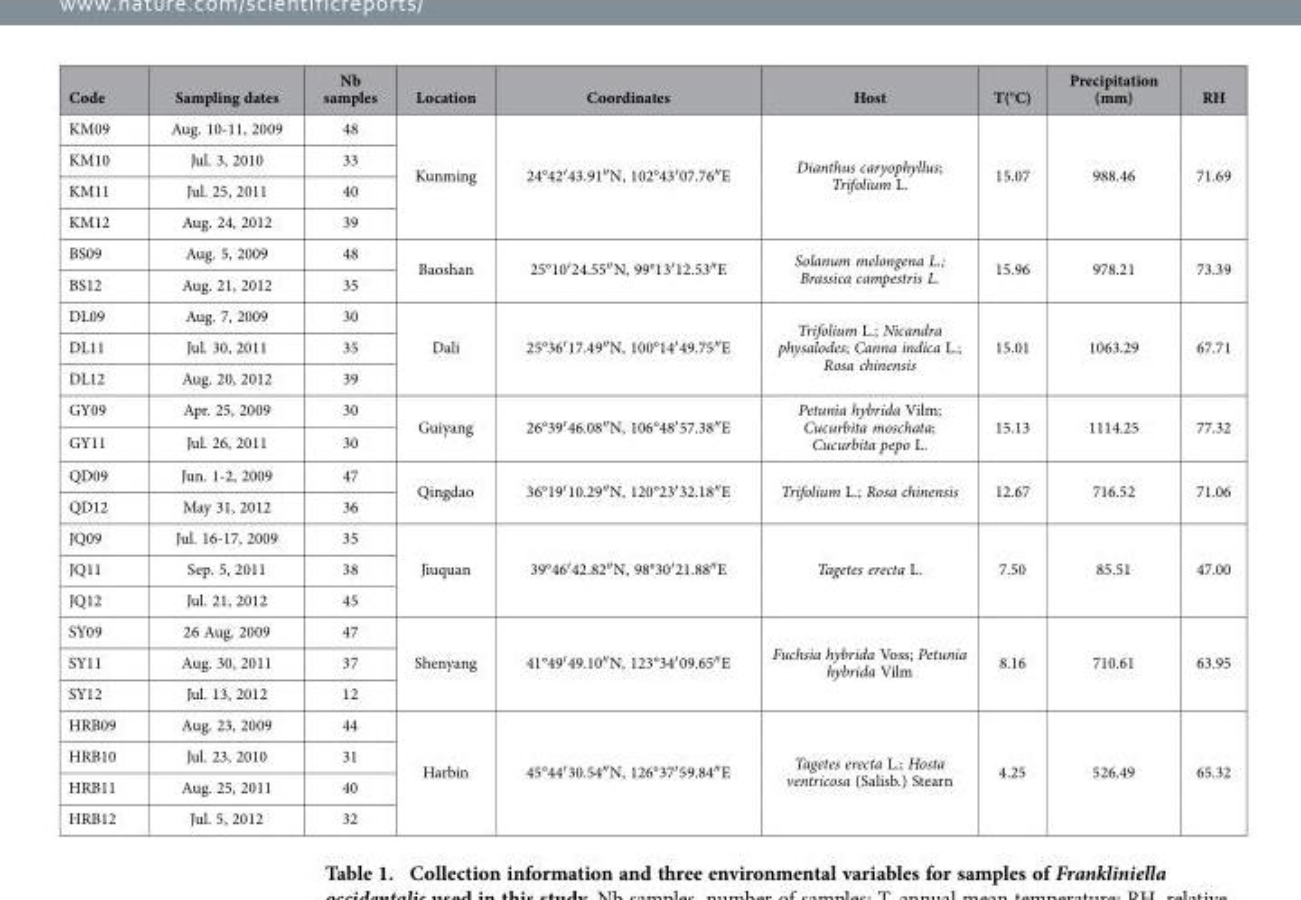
<table><thead><tr><td>Code</td><td>Sampling dates</td><td>Nb samples</td><td>Location</td><td>Coordinates</td><td>Host</td><td>T(°C)</td><td>Precipitation (mm)</td><td>RH</td></tr></thead><tbody><tr><td>KM09</td><td>Aug. 10-11, 2009</td><td>48</td><td rowspan="4">Kunming</td><td rowspan="4">24°42′ 43.91″ N, 102°43′ 07.76″ E</td><td rowspan="4">Dianthus caryophyllus; Trifolium L.</td><td rowspan="4">15.07</td><td rowspan="4">988.46</td><td rowspan="4">71.69</td></tr><tr><td>KM10</td><td>Jul. 3, 2010</td><td>33</td></tr><tr><td>KM11</td><td>Jul. 25, 2011</td><td>40</td></tr><tr><td>KM12</td><td>Aug. 24, 2012</td><td>39</td></tr><tr><td>BS09</td><td>Aug. 5, 2009</td><td>48</td><td rowspan="2">Baoshan</td><td rowspan="2">25°10′ 24.55″ N, 99°13′ 12.53″ E</td><td rowspan="2">Solanum melongena L.; Brassica campestris L.</td><td rowspan="2">15.96</td><td rowspan="2">978.21</td><td rowspan="2">73.39</td></tr><tr><td>BS12</td><td>Aug. 21, 2012</td><td>35</td></tr><tr><td>DL09</td><td>Aug. 7, 2009</td><td>30</td><td rowspan="3">Dali</td><td rowspan="3">25°36′ 17.49″ N, 100°14′ 49.75″ E</td><td rowspan="3">Trifolium L.; Nicandra physalodes; Canna indica L.; Rosa chinensis</td><td rowspan="3">15.01</td><td rowspan="3">1063.29</td><td rowspan="3">67.71</td></tr><tr><td>DL11</td><td>Jul. 30, 2011</td><td>35</td></tr><tr><td>DL12</td><td>Aug. 20, 2012</td><td>39</td></tr><tr><td>GY09</td><td>Apr. 25, 2009</td><td>30</td><td rowspan="2">Guiyang</td><td rowspan="2">26°39′ 46.08″ N, 106°48′ 57.38″ E</td><td rowspan="2">Petunia hybrida Vilm; Cucurbita moschata; Cucurbita pepo L.</td><td rowspan="2">15.13</td><td rowspan="2">1114.25</td><td rowspan="2">77.32</td></tr><tr><td>GY11</td><td>Jul. 26, 2011</td><td>30</td></tr><tr><td>QD09</td><td>Jun. 1-2, 2009</td><td>47</td><td rowspan="2">Qingdao</td><td rowspan="2">36°19′ 10.29″ N, 120°23′ 32.18″ E</td><td rowspan="2">Trifolium L.; Rosa chinensis</td><td rowspan="2">12.67</td><td rowspan="2">716.52</td><td rowspan="2">71.06</td></tr><tr><td>QD12</td><td>May 31, 2012</td><td>36</td></tr><tr><td>JQ09</td><td>Jul. 16-17, 2009</td><td>35</td><td rowspan="3">Jiuquan</td><td rowspan="3">39°46′ 42.82″ N, 98°30′ 21.88″ E</td><td rowspan="3">Tagetes erecta L.</td><td rowspan="3">7.50</td><td rowspan="3">85.51</td><td rowspan="3">47.00</td></tr><tr><td>JQ11</td><td>Sep. 5, 2011</td><td>38</td></tr><tr><td>JQ12</td><td>Jul. 21, 2012</td><td>45</td></tr><tr><td>SY09</td><td>26 Aug. 2009</td><td>47</td><td rowspan="3">Shenyang</td><td rowspan="3">41°49′ 49.10″ N, 123°34′ 09.65″ E</td><td rowspan="3">Fuchsia hybrida Voss; Petunia hybrida Vilm</td><td rowspan="3">8.16</td><td rowspan="3">710.61</td><td rowspan="3">63.95</td></tr><tr><td>SY11</td><td>Aug. 30, 2011</td><td>37</td></tr><tr><td>SY12</td><td>Jul. 13, 2012</td><td>12</td></tr><tr><td>HRB09</td><td>Aug. 23, 2009</td><td>44</td><td rowspan="4">Harbin</td><td rowspan="4">45°44′ 30.54″ N, 126°37′ 59.84″ E</td><td rowspan="4">Tagetes erecta L.; Hosta ventricosa (Salisb.) Stearn</td><td rowspan="4">4.25</td><td rowspan="4">526.49</td><td rowspan="4">65.32</td></tr><tr><td>HRB10</td><td>Jul. 23, 2010</td><td>31</td></tr><tr><td>HRB11</td><td>Aug. 25, 2011</td><td>40</td></tr><tr><td>HRB12</td><td>Jul. 5, 2012</td><td>32</td></tr></tbody></table>